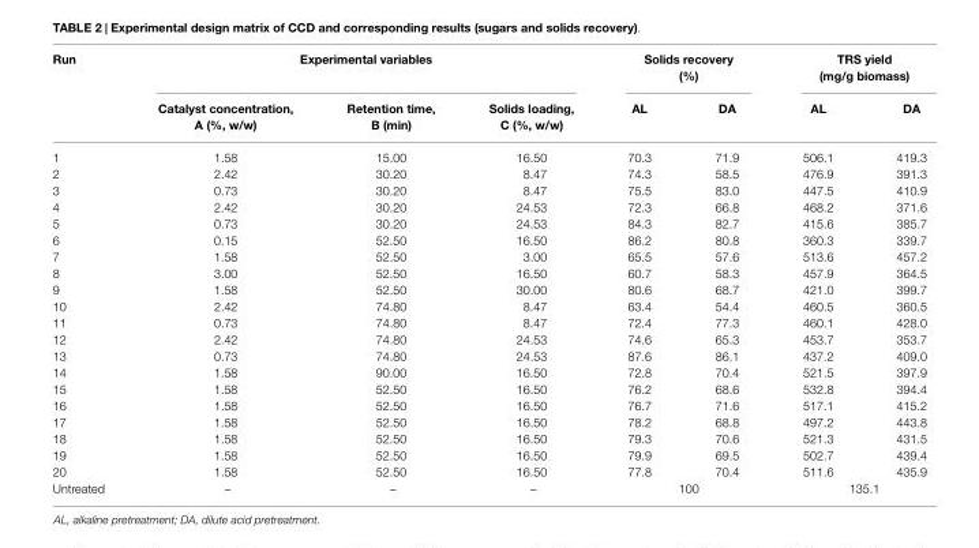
<table><thead><tr><td rowspan="2">Run</td><td colspan="3">Experimental variables</td><td colspan="2">Solids recovery (%)</td><td colspan="2">TRS yield (mg/g biomass)</td></tr><tr><td>Catalyst concentration, A (%, w/w)</td><td>Retention time, B (min)</td><td>Solids loading, C (%, w/w)</td><td>AL</td><td>DA</td><td>AL</td><td>DA</td></tr></thead><tbody><tr><td>1</td><td>1.58</td><td>15.00</td><td>16.50</td><td>70.3</td><td>71.9</td><td>506.1</td><td>419.3</td></tr><tr><td>2</td><td>2.42</td><td>30.20</td><td>8.47</td><td>74.3</td><td>58.5</td><td>476.9</td><td>391.3</td></tr><tr><td>3</td><td>0.73</td><td>30.20</td><td>8.47</td><td>75.5</td><td>83.0</td><td>447.5</td><td>410.9</td></tr><tr><td>4</td><td>2.42</td><td>30.20</td><td>24.53</td><td>72.3</td><td>66.8</td><td>468.2</td><td>371.6</td></tr><tr><td>5</td><td>0.73</td><td>30.20</td><td>24.53</td><td>84.3</td><td>82.7</td><td>415.6</td><td>385.7</td></tr><tr><td>6</td><td>0.15</td><td>52.50</td><td>16.50</td><td>86.2</td><td>80.8</td><td>360.3</td><td>339.7</td></tr><tr><td>7</td><td>1.58</td><td>52.50</td><td>3.00</td><td>65.5</td><td>57.6</td><td>513.6</td><td>457.2</td></tr><tr><td>8</td><td>3.00</td><td>52.50</td><td>16.50</td><td>60.7</td><td>58.3</td><td>457.9</td><td>364.5</td></tr><tr><td>9</td><td>1.58</td><td>52.50</td><td>30.00</td><td>80.6</td><td>68.7</td><td>421.0</td><td>399.7</td></tr><tr><td>10</td><td>2.42</td><td>74.80</td><td>8.47</td><td>63.4</td><td>54.4</td><td>460.5</td><td>360.5</td></tr><tr><td>11</td><td>0.73</td><td>74.80</td><td>8.47</td><td>72.4</td><td>77.3</td><td>460.1</td><td>428.0</td></tr><tr><td>12</td><td>2.42</td><td>74.80</td><td>24.53</td><td>74.6</td><td>65.3</td><td>453.7</td><td>353.7</td></tr><tr><td>13</td><td>0.73</td><td>74.80</td><td>24.53</td><td>87.6</td><td>86.1</td><td>437.2</td><td>409.0</td></tr><tr><td>14</td><td>1.58</td><td>90.00</td><td>16.50</td><td>72.8</td><td>70.4</td><td>521.5</td><td>397.9</td></tr><tr><td>15</td><td>1.58</td><td>52.50</td><td>16.50</td><td>76.2</td><td>68.6</td><td>532.8</td><td>394.4</td></tr><tr><td>16</td><td>1.58</td><td>52.50</td><td>16.50</td><td>76.7</td><td>71.6</td><td>517.1</td><td>415.2</td></tr><tr><td>17</td><td>1.58</td><td>52.50</td><td>16.50</td><td>78.2</td><td>68.8</td><td>497.2</td><td>443.8</td></tr><tr><td>18</td><td>1.58</td><td>52.50</td><td>16.50</td><td>79.3</td><td>70.6</td><td>521.3</td><td>431.5</td></tr><tr><td>19</td><td>1.58</td><td>52.50</td><td>16.50</td><td>79.9</td><td>69.5</td><td>502.7</td><td>439.4</td></tr><tr><td>20</td><td>1.58</td><td>52.50</td><td>16.50</td><td>77.8</td><td>70.4</td><td>511.6</td><td>435.9</td></tr><tr><td>Untreated</td><td>–</td><td>–</td><td>–</td><td colspan="2">100</td><td colspan="2">135.1</td></tr></tbody></table>